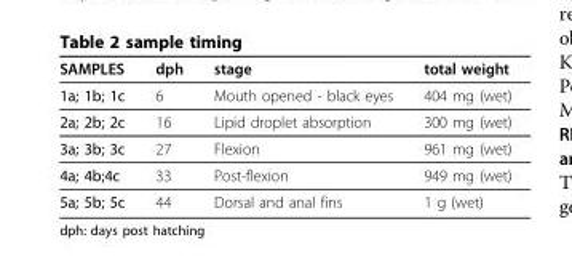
<table><thead><tr><td>SAMPLES</td><td>dph</td><td>stage</td><td>total weight</td></tr></thead><tbody><tr><td>1a; 1b; 1c</td><td>6</td><td>Mouth opened - black eyes</td><td>404 mg (wet)</td></tr><tr><td>2a; 2b; 2c</td><td>16</td><td>Lipid droplet absorption</td><td>300 mg (wet)</td></tr><tr><td>3a; 3b; 3c</td><td>27</td><td>Flexion</td><td>961 mg (wet)</td></tr><tr><td>4a; 4b;4c</td><td>33</td><td>Post-flexion</td><td>949 mg (wet)</td></tr><tr><td>5a; 5b; 5c</td><td>44</td><td>Dorsal and anal fins</td><td>1 g (wet)</td></tr></tbody></table>